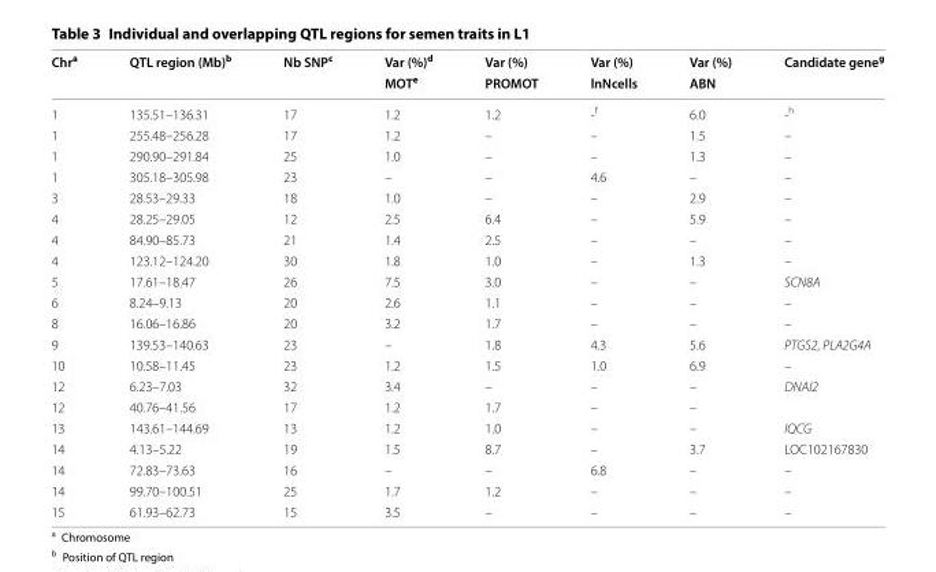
<table><thead><tr><td rowspan="2">Chr<sup>a</sup></td><td rowspan="2">QTL region (Mb)<sup>b</sup></td><td rowspan="2">Nb SNP<sup>c</sup></td><td rowspan="2">Var (%)<sup>d</sup> MOT<sup>e</sup></td><td rowspan="2">Var (%) PROMOT</td><td rowspan="2">Var (%) lnNcells</td><td rowspan="2">Var (%) ABN</td><td rowspan="2">Candidate gene<sup>g</sup></td></tr><tr></tr></thead><tbody><tr><td>1</td><td>135.51–136.31</td><td>17</td><td>1.2</td><td>1.2</td><td>-<sup>f</sup></td><td>6.0</td><td>-<sup>h</sup></td></tr><tr><td>1</td><td>255.48–256.28</td><td>17</td><td>1.2</td><td>–</td><td>–</td><td>1.5</td><td>–</td></tr><tr><td>1</td><td>290.90–291.84</td><td>25</td><td>1.0</td><td>–</td><td>–</td><td>1.3</td><td>–</td></tr><tr><td>1</td><td>305.18–305.98</td><td>23</td><td>–</td><td>–</td><td>4.6</td><td>–</td><td>–</td></tr><tr><td>3</td><td>28.53–29.33</td><td>18</td><td>1.0</td><td>–</td><td>–</td><td>2.9</td><td>–</td></tr><tr><td>4</td><td>28.25–29.05</td><td>12</td><td>2.5</td><td>6.4</td><td>–</td><td>5.9</td><td>–</td></tr><tr><td>4</td><td>84.90–85.73</td><td>21</td><td>1.4</td><td>2.5</td><td>–</td><td>–</td><td>–</td></tr><tr><td>4</td><td>123.12–124.20</td><td>30</td><td>1.8</td><td>1.0</td><td>–</td><td>1.3</td><td>–</td></tr><tr><td>5</td><td>17.61–18.47</td><td>26</td><td>7.5</td><td>3.0</td><td>–</td><td>–</td><td>SCN8A</td></tr><tr><td>6</td><td>8.24–9.13</td><td>20</td><td>2.6</td><td>1.1</td><td>–</td><td>–</td><td>–</td></tr><tr><td>8</td><td>16.06–16.86</td><td>20</td><td>3.2</td><td>1.7</td><td>–</td><td>–</td><td>–</td></tr><tr><td>9</td><td>139.53–140.63</td><td>23</td><td>–</td><td>1.8</td><td>4.3</td><td>5.6</td><td>PTGS2, PLA2G4A</td></tr><tr><td>10</td><td>10.58–11.45</td><td>23</td><td>1.2</td><td>1.5</td><td>1.0</td><td>6.9</td><td>–</td></tr><tr><td>12</td><td>6.23–7.03</td><td>32</td><td>3.4</td><td>–</td><td>–</td><td>–</td><td>DNAI2</td></tr><tr><td>12</td><td>40.76–41.56</td><td>17</td><td>1.2</td><td>1.7</td><td>–</td><td>–</td><td></td></tr><tr><td>13</td><td>143.61–144.69</td><td>13</td><td>1.2</td><td>1.0</td><td>–</td><td>–</td><td>IQCG</td></tr><tr><td>14</td><td>4.13–5.22</td><td>19</td><td>1.5</td><td>8.7</td><td>–</td><td>3.7</td><td>LOC102167830</td></tr><tr><td>14</td><td>72.83–73.63</td><td>16</td><td>–</td><td>–</td><td>6.8</td><td>–</td><td>–</td></tr><tr><td>14</td><td>99.70–100.51</td><td>25</td><td>1.7</td><td>1.2</td><td>–</td><td>–</td><td>–</td></tr><tr><td>15</td><td>61.93–62.73</td><td>15</td><td>3.5</td><td>–</td><td>–</td><td>–</td><td>–</td></tr></tbody></table>